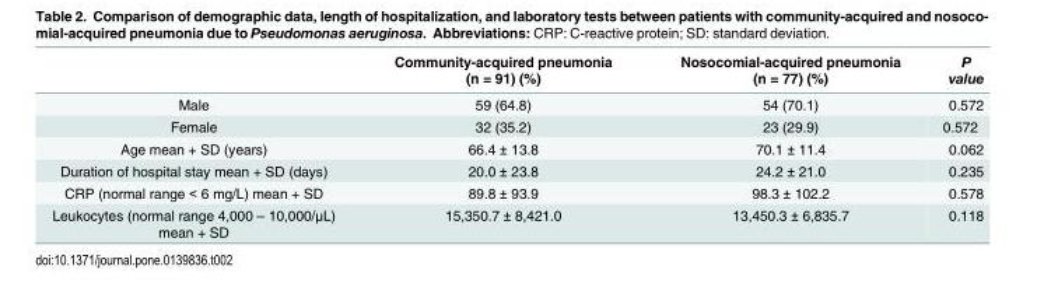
<table><thead><tr><td></td><td>Community-acquired pneumonia (n = 91) (%)</td><td>Nosocomial-acquired pneumonia (n = 77) (%)</td><td>P value</td></tr></thead><tbody><tr><td>Male</td><td>59 (64.8)</td><td>54 (70.1)</td><td>0.572</td></tr><tr><td>Female</td><td>32 (35.2)</td><td>23 (29.9)</td><td>0.572</td></tr><tr><td>Age mean + SD (years)</td><td>66.4 ± 13.8</td><td>70.1 ± 11.4</td><td>0.062</td></tr><tr><td>Duration of hospital stay mean + SD (days)</td><td>20.0 ± 23.8</td><td>24.2 ± 21.0</td><td>0.235</td></tr><tr><td>CRP (normal range &lt; 6 mg/L) mean + SD</td><td>89.8 ± 93.9</td><td>98.3 ± 102.2</td><td>0.578</td></tr><tr><td>Leukocytes (normal range 4,000 – 10,000/μL) mean + SD</td><td>15,350.7 ± 8,421.0</td><td>13,450.3 ± 6,835.7</td><td>0.118</td></tr></tbody></table>